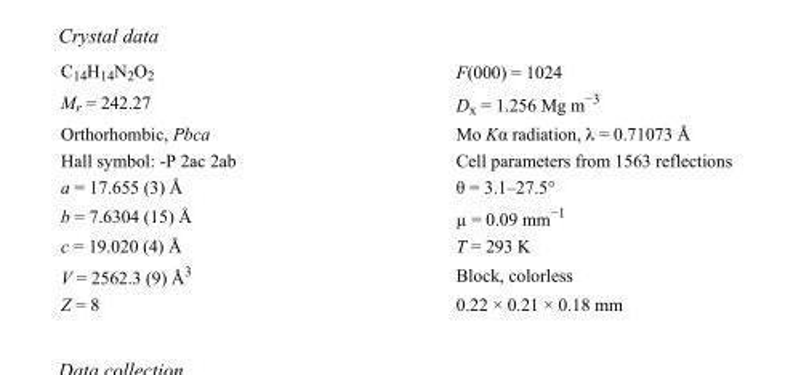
<table><tbody><tr><td>C<sub>14</sub>H<sub>14</sub>N<sub>2</sub>O<sub>2</sub></td><td>F(000) = 1024</td></tr><tr><td>M<sub>r</sub> = 242.27</td><td>D<sub>x</sub> = 1.256 Mg m<sup>−3</sup></td></tr><tr><td>Orthorhombic, Pbca</td><td>Mo Kα radiation, λ = 0.71073 Å</td></tr><tr><td>Hall symbol: -P 2ac 2ab</td><td>Cell parameters from 1563 reflections</td></tr><tr><td>a = 17.655 (3) Å</td><td>θ = 3.1–27.5°</td></tr><tr><td>b = 7.6304 (15) Å</td><td>µ = 0.09 mm<sup>−1</sup></td></tr><tr><td>c = 19.020 (4) Å</td><td>T = 293 K</td></tr><tr><td>V = 2562.3 (9) Å<sup>3</sup></td><td>Block, colorless</td></tr><tr><td>Z = 8</td><td>0.22 × 0.21 × 0.18 mm</td></tr></tbody></table>